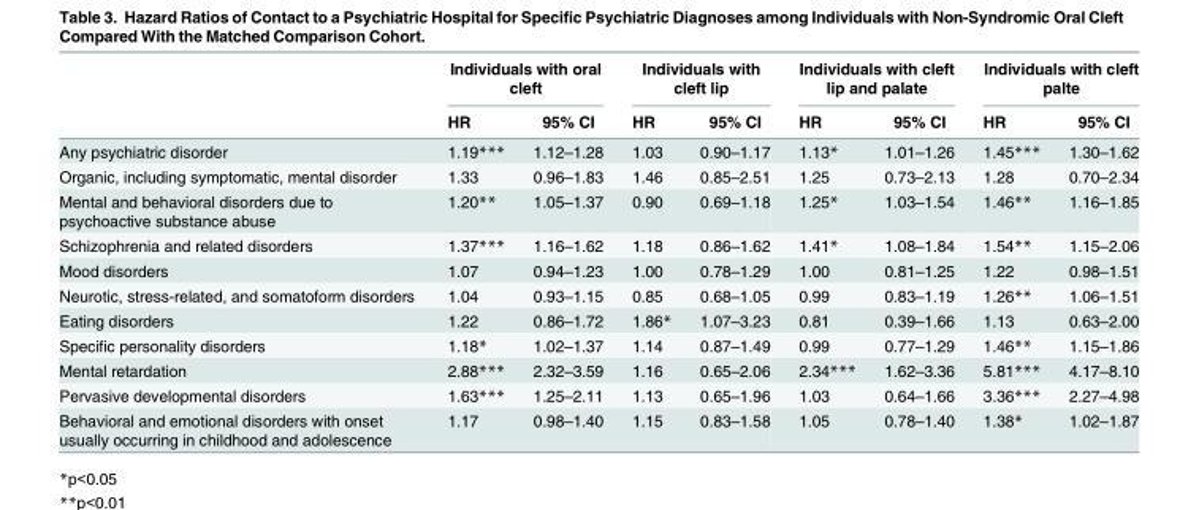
<table><thead><tr><td rowspan="2"></td><td colspan="2">Individuals with oral cleft</td><td colspan="2">Individuals with cleft lip</td><td colspan="2">Individuals with cleft lip and palate</td><td colspan="2">Individuals with cleft palte</td></tr><tr><td>HR</td><td>95% CI</td><td>HR</td><td>95% CI</td><td>HR</td><td>95% CI</td><td>HR</td><td>95% CI</td></tr></thead><tbody><tr><td>Any psychiatric disorder</td><td>1.19***</td><td>1.12–1.28</td><td>1.03</td><td>0.90–1.17</td><td>1.13*</td><td>1.01–1.26</td><td>1.45***</td><td>1.30–1.62</td></tr><tr><td>Organic, including symptomatic, mental disorder</td><td>1.33</td><td>0.96–1.83</td><td>1.46</td><td>0.85–2.51</td><td>1.25</td><td>0.73–2.13</td><td>1.28</td><td>0.70–2.34</td></tr><tr><td>Mental and behavioral disorders due to psychoactive substance abuse</td><td>1.20**</td><td>1.05–1.37</td><td>0.90</td><td>0.69–1.18</td><td>1.25*</td><td>1.03–1.54</td><td>1.46**</td><td>1.16–1.85</td></tr><tr><td>Schizophrenia and related disorders</td><td>1.37***</td><td>1.16–1.62</td><td>1.18</td><td>0.86–1.62</td><td>1.41*</td><td>1.08–1.84</td><td>1.54**</td><td>1.15–2.06</td></tr><tr><td>Mood disorders</td><td>1.07</td><td>0.94–1.23</td><td>1.00</td><td>0.78–1.29</td><td>1.00</td><td>0.81–1.25</td><td>1.22</td><td>0.98–1.51</td></tr><tr><td>Neurotic, stress-related, and somatoform disorders</td><td>1.04</td><td>0.93–1.15</td><td>0.85</td><td>0.68–1.05</td><td>0.99</td><td>0.83–1.19</td><td>1.26**</td><td>1.06–1.51</td></tr><tr><td>Eating disorders</td><td>1.22</td><td>0.86–1.72</td><td>1.86*</td><td>1.07–3.23</td><td>0.81</td><td>0.39–1.66</td><td>1.13</td><td>0.63–2.00</td></tr><tr><td>Specific personality disorders</td><td>1.18*</td><td>1.02–1.37</td><td>1.14</td><td>0.87–1.49</td><td>0.99</td><td>0.77–1.29</td><td>1.46**</td><td>1.15–1.86</td></tr><tr><td>Mental retardation</td><td>2.88***</td><td>2.32–3.59</td><td>1.16</td><td>0.65–2.06</td><td>2.34***</td><td>1.62–3.36</td><td>5.81***</td><td>4.17–8.10</td></tr><tr><td>Pervasive developmental disorders</td><td>1.63***</td><td>1.25–2.11</td><td>1.13</td><td>0.65–1.96</td><td>1.03</td><td>0.64–1.66</td><td>3.36***</td><td>2.27–4.98</td></tr><tr><td>Behavioral and emotional disorders with onset usually occurring in childhood and adolescence</td><td>1.17</td><td>0.98–1.40</td><td>1.15</td><td>0.83–1.58</td><td>1.05</td><td>0.78–1.40</td><td>1.38*</td><td>1.02–1.87</td></tr></tbody></table>